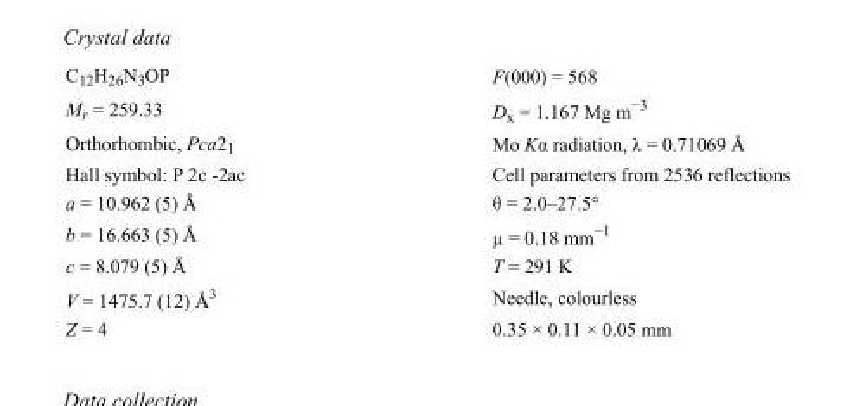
<table><tbody><tr><td>C<sub>12</sub>H<sub>26</sub>N<sub>3</sub>OP</td><td>F(000) = 568</td></tr><tr><td>M<sub>r</sub> = 259.33</td><td>D<sub>x</sub> = 1.167 Mg m<sup>−3</sup></td></tr><tr><td>Orthorhombic, Pca2<sub>1</sub></td><td>Mo Kα radiation, λ = 0.71069 Å</td></tr><tr><td>Hall symbol: P 2c -2ac</td><td>Cell parameters from 2536 reflections</td></tr><tr><td>a = 10.962 (5) Å</td><td>θ = 2.0–27.5°</td></tr><tr><td>b = 16.663 (5) Å</td><td>µ = 0.18 mm<sup>−1</sup></td></tr><tr><td>c = 8.079 (5) Å</td><td>T = 291 K</td></tr><tr><td>V = 1475.7 (12) Å<sup>3</sup></td><td>Needle, colourless</td></tr><tr><td>Z = 4</td><td>0.35 × 0.11 × 0.05 mm</td></tr></tbody></table>